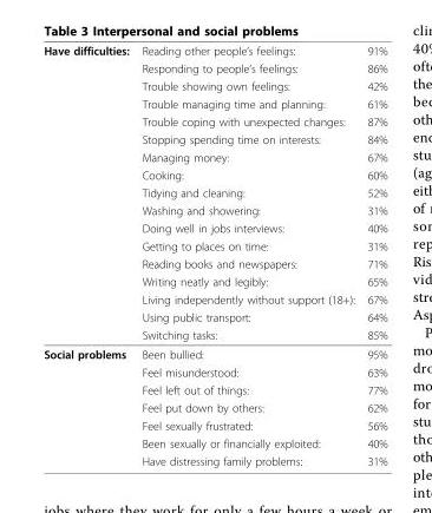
<table><thead><tr><td rowspan="17">Have difficulties:</td><td rowspan="17">Reading other people’s feelings: Responding to people’s feelings: Trouble showing own feelings: Trouble managing time and planning: Trouble coping with unexpected changes: Stopping spending time on interests: Managing money: Cooking: Tidying and cleaning: Washing and showering: Doing well in jobs interviews: Getting to places on time: Reading books and newspapers: Writing neatly and legibly: Living independently without support (18+): Using public transport: Switching tasks:</td><td rowspan="17">91% 86% 42% 61% 87% 84% 67% 60% 52% 31% 40% 31% 71% 65% 67% 64% 85%</td></tr><tr></tr><tr></tr><tr></tr><tr></tr><tr></tr><tr></tr><tr></tr><tr></tr><tr></tr><tr></tr><tr></tr><tr></tr><tr></tr><tr></tr><tr></tr><tr></tr></thead><tbody><tr><td rowspan="7">Social problems</td><td>Been bullied:</td><td>95%</td></tr><tr><td>Feel misunderstood:</td><td>63%</td></tr><tr><td>Feel left out of things:</td><td>77%</td></tr><tr><td>Feel put down by others:</td><td>62%</td></tr><tr><td>Feel sexually frustrated:</td><td>56%</td></tr><tr><td>Been sexually or financially exploited:</td><td>40%</td></tr><tr><td>Have distressing family problems:</td><td>31%</td></tr></tbody></table>